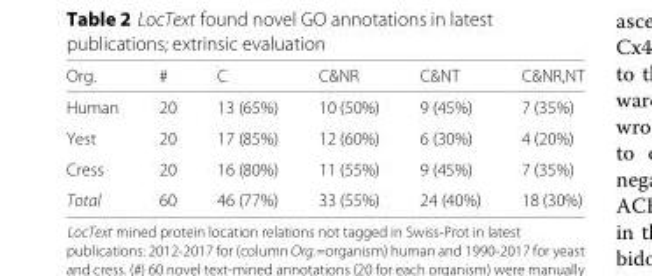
<table><thead><tr><td>Org.</td><td>#</td><td>C</td><td>C&amp;NR</td><td>C&amp;NT</td><td>C&amp;NR,NT</td></tr></thead><tbody><tr><td>Human</td><td>20</td><td>13 (65%)</td><td>10 (50%)</td><td>9 (45%)</td><td>7 (35%)</td></tr><tr><td>Yest</td><td>20</td><td>17 (85%)</td><td>12 (60%)</td><td>6 (30%)</td><td>4 (20%)</td></tr><tr><td>Cress</td><td>20</td><td>16 (80%)</td><td>11 (55%)</td><td>9 (45%)</td><td>7 (35%)</td></tr><tr><td>Total</td><td>60</td><td>46 (77%)</td><td>33 (55%)</td><td>24 (40%)</td><td>18 (30%)</td></tr></tbody></table>